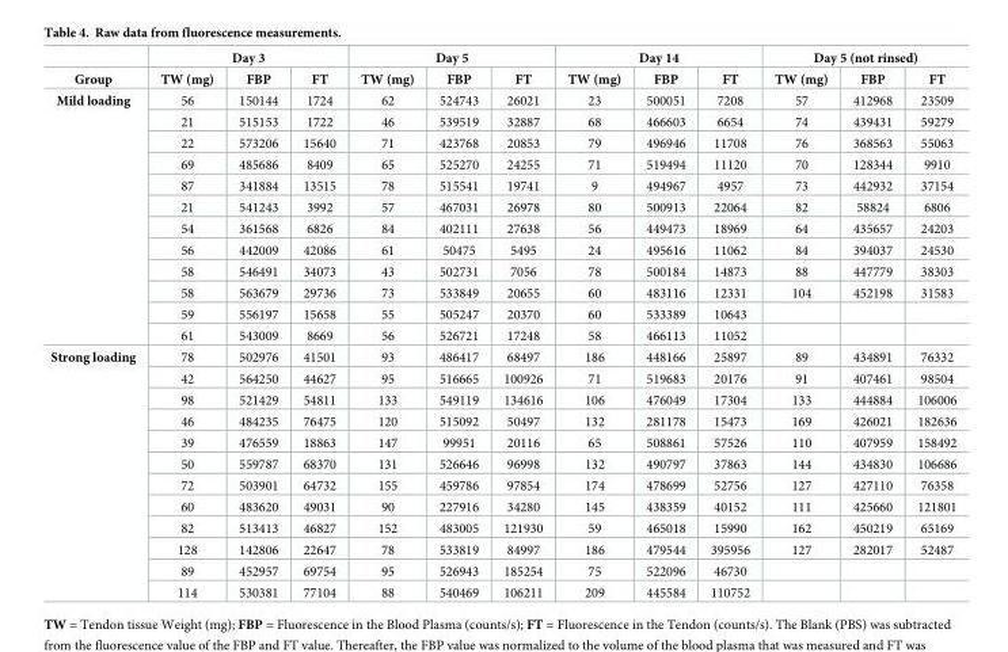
<table><thead><tr><td rowspan="2">Group</td><td colspan="3">Day 3</td><td colspan="3">Day 5</td><td colspan="3">Day 14</td><td colspan="3">Day 5 (not rinsed)</td></tr><tr><td>TW (mg)</td><td>FBP</td><td>FT</td><td>TW (mg)</td><td>FBP</td><td>FT</td><td>TW (mg)</td><td>FBP</td><td>FT</td><td>TW (mg)</td><td>FBP</td><td>FT</td></tr></thead><tbody><tr><td rowspan="12">Mild loading</td><td>56</td><td>150144</td><td>1724</td><td>62</td><td>524743</td><td>26021</td><td>23</td><td>500051</td><td>7208</td><td>57</td><td>412968</td><td>23509</td></tr><tr><td>21</td><td>515153</td><td>1722</td><td>46</td><td>539519</td><td>32887</td><td>68</td><td>466603</td><td>6654</td><td>74</td><td>439431</td><td>59279</td></tr><tr><td>22</td><td>573206</td><td>15640</td><td>71</td><td>423768</td><td>20853</td><td>79</td><td>496946</td><td>11708</td><td>76</td><td>368563</td><td>55063</td></tr><tr><td>69</td><td>485686</td><td>8409</td><td>65</td><td>525270</td><td>24255</td><td>71</td><td>519494</td><td>11120</td><td>70</td><td>128344</td><td>9910</td></tr><tr><td>87</td><td>341884</td><td>13515</td><td>78</td><td>515541</td><td>19741</td><td>9</td><td>494967</td><td>4957</td><td>73</td><td>442932</td><td>37154</td></tr><tr><td>21</td><td>541243</td><td>3992</td><td>57</td><td>467031</td><td>26978</td><td>80</td><td>500913</td><td>22064</td><td>82</td><td>58824</td><td>6806</td></tr><tr><td>54</td><td>361568</td><td>6826</td><td>84</td><td>402111</td><td>27638</td><td>56</td><td>449473</td><td>18969</td><td>64</td><td>435657</td><td>24203</td></tr><tr><td>56</td><td>442009</td><td>42086</td><td>61</td><td>50475</td><td>5495</td><td>24</td><td>495616</td><td>11062</td><td>84</td><td>394037</td><td>24530</td></tr><tr><td>58</td><td>546491</td><td>34073</td><td>43</td><td>502731</td><td>7056</td><td>78</td><td>500184</td><td>14873</td><td>88</td><td>447779</td><td>38303</td></tr><tr><td>58</td><td>563679</td><td>29736</td><td>73</td><td>533849</td><td>20655</td><td>60</td><td>483116</td><td>12331</td><td>104</td><td>452198</td><td>31583</td></tr><tr><td>59</td><td>556197</td><td>15658</td><td>55</td><td>505247</td><td>20370</td><td>60</td><td>533389</td><td>10643</td><td></td><td></td><td></td></tr><tr><td>61</td><td>543009</td><td>8669</td><td>56</td><td>526721</td><td>17248</td><td>58</td><td>466113</td><td>11052</td><td></td><td></td><td></td></tr><tr><td rowspan="12">Strong loading</td><td>78</td><td>502976</td><td>41501</td><td>93</td><td>486417</td><td>68497</td><td>186</td><td>448166</td><td>25897</td><td>89</td><td>434891</td><td>76332</td></tr><tr><td>42</td><td>564250</td><td>44627</td><td>95</td><td>516665</td><td>100926</td><td>71</td><td>519683</td><td>20176</td><td>91</td><td>407461</td><td>98504</td></tr><tr><td>98</td><td>521429</td><td>54811</td><td>133</td><td>549119</td><td>134616</td><td>106</td><td>476049</td><td>17304</td><td>133</td><td>444884</td><td>106006</td></tr><tr><td>46</td><td>484235</td><td>76475</td><td>120</td><td>515092</td><td>50497</td><td>132</td><td>281178</td><td>15473</td><td>169</td><td>426021</td><td>182636</td></tr><tr><td>39</td><td>476559</td><td>18863</td><td>147</td><td>99951</td><td>20116</td><td>65</td><td>508861</td><td>57526</td><td>110</td><td>407959</td><td>158492</td></tr><tr><td>50</td><td>559787</td><td>68370</td><td>131</td><td>526646</td><td>96998</td><td>132</td><td>490797</td><td>37863</td><td>144</td><td>434830</td><td>106686</td></tr><tr><td>72</td><td>503901</td><td>64732</td><td>155</td><td>459786</td><td>97854</td><td>174</td><td>478699</td><td>52756</td><td>127</td><td>427110</td><td>76358</td></tr><tr><td>60</td><td>483620</td><td>49031</td><td>90</td><td>227916</td><td>34280</td><td>145</td><td>438359</td><td>40152</td><td>111</td><td>425660</td><td>121801</td></tr><tr><td>82</td><td>513413</td><td>46827</td><td>152</td><td>483005</td><td>121930</td><td>59</td><td>465018</td><td>15990</td><td>162</td><td>450219</td><td>65169</td></tr><tr><td>128</td><td>142806</td><td>22647</td><td>78</td><td>533819</td><td>84997</td><td>186</td><td>479544</td><td>395956</td><td>127</td><td>282017</td><td>52487</td></tr><tr><td>89</td><td>452957</td><td>69754</td><td>95</td><td>526943</td><td>185254</td><td>75</td><td>522096</td><td>46730</td><td></td><td></td><td></td></tr><tr><td>114</td><td>530381</td><td>77104</td><td>88</td><td>540469</td><td>106211</td><td>209</td><td>445584</td><td>110752</td><td></td><td></td><td></td></tr></tbody></table>